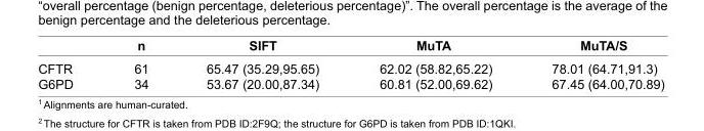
<table><thead><tr><td></td><td>n</td><td>SIFT</td><td>MuTA</td><td>MuTA/S</td></tr></thead><tbody><tr><td>CFTR</td><td>61</td><td>65.47 (35.29,95.65)</td><td>62.02 (58.82,65.22)</td><td>78.01 (64.71,91.3)</td></tr><tr><td>G6PD</td><td>34</td><td>53.67 (20.00,87.34)</td><td>60.81 (52.00,69.62)</td><td>67.45 (64.00,70.89)</td></tr></tbody></table>